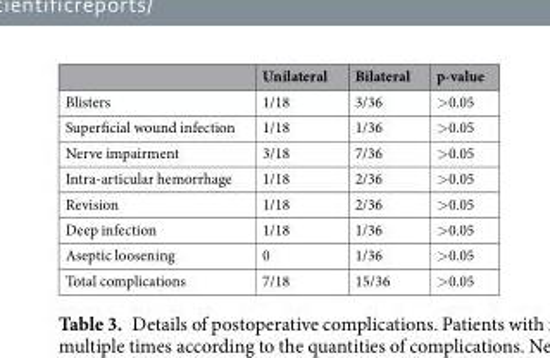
<table><thead><tr><td></td><td>Unilateral</td><td>Bilateral</td><td>p-value</td></tr></thead><tbody><tr><td>Blisters</td><td>1/18</td><td>3/36</td><td>&gt;0.05</td></tr><tr><td>Superficial wound infection</td><td>1/18</td><td>1/36</td><td>&gt;0.05</td></tr><tr><td>Nerve impairment</td><td>3/18</td><td>7/36</td><td>&gt;0.05</td></tr><tr><td>Intra-articular hemorrhage</td><td>1/18</td><td>2/36</td><td>&gt;0.05</td></tr><tr><td>Revision</td><td>1/18</td><td>2/36</td><td>&gt;0.05</td></tr><tr><td>Deep infection</td><td>1/18</td><td>1/36</td><td>&gt;0.05</td></tr><tr><td>Aseptic loosening</td><td>0</td><td>1/36</td><td>&gt;0.05</td></tr><tr><td>Total complications</td><td>7/18</td><td>15/36</td><td>&gt;0.05</td></tr></tbody></table>